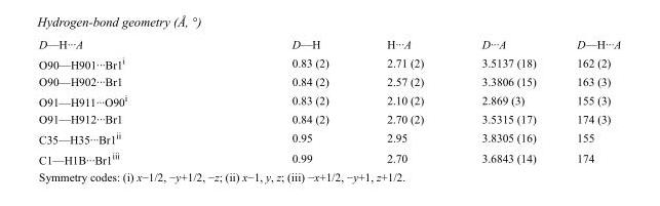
<table><tbody><tr><td>D—H···A</td><td>D—H</td><td>H···A</td><td>D···A</td><td>D—H···A</td></tr><tr><td>O90—H901···Br1<sup>i</sup></td><td>0.83 (2)</td><td>2.71 (2)</td><td>3.5137 (18)</td><td>162 (2)</td></tr><tr><td>O90—H902···Br1</td><td>0.84 (2)</td><td>2.57 (2)</td><td>3.3806 (15)</td><td>163 (3)</td></tr><tr><td>O91—H911···O90<sup>i</sup></td><td>0.83 (2)</td><td>2.10 (2)</td><td>2.869 (3)</td><td>155 (3)</td></tr><tr><td>O91—H912···Br1</td><td>0.84 (2)</td><td>2.70 (2)</td><td>3.5315 (17)</td><td>174 (3)</td></tr><tr><td>C35—H35···Br1<sup>ii</sup></td><td>0.95</td><td>2.95</td><td>3.8305 (16)</td><td>155</td></tr><tr><td>C1—H1B···Br1<sup>iii</sup></td><td>0.99</td><td>2.70</td><td>3.6843 (14)</td><td>174</td></tr></tbody></table>